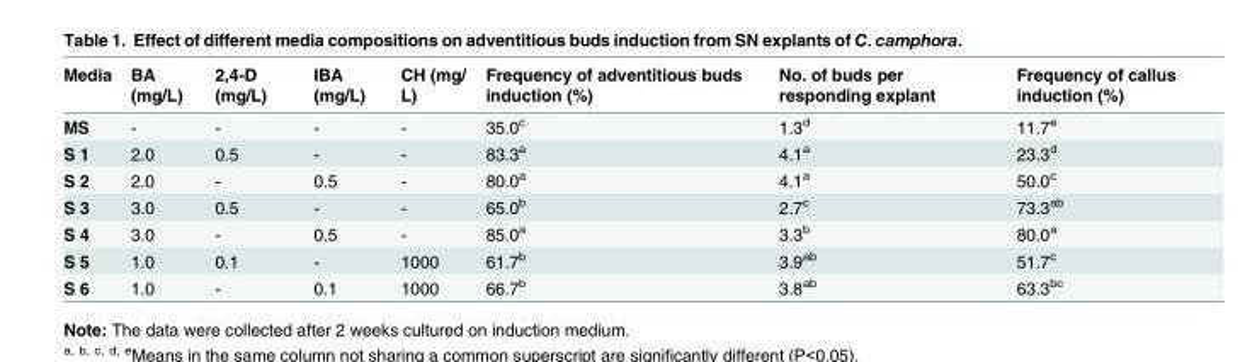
<table><thead><tr><td>Media</td><td>BA (mg/L)</td><td>2,4-D (mg/L)</td><td>IBA (mg/L)</td><td>CH (mg/ L)</td><td>Frequency of adventitious buds induction (%)</td><td>No. of buds per responding explant</td><td>Frequency of callus induction (%)</td></tr></thead><tbody><tr><td>MS</td><td>-</td><td>-</td><td>-</td><td>-</td><td>35.0<sup>c</sup></td><td>1.3<sup>d</sup></td><td>11.7<sup>e</sup></td></tr><tr><td>S 1</td><td>2.0</td><td>0.5</td><td>-</td><td>-</td><td>83.3<sup>a</sup></td><td>4.1<sup>a</sup></td><td>23.3<sup>d</sup></td></tr><tr><td>S 2</td><td>2.0</td><td>-</td><td>0.5</td><td>-</td><td>80.0<sup>a</sup></td><td>4.1<sup>a</sup></td><td>50.0<sup>c</sup></td></tr><tr><td>S 3</td><td>3.0</td><td>0.5</td><td>-</td><td>-</td><td>65.0<sup>b</sup></td><td>2.7<sup>c</sup></td><td>73.3<sup>ab</sup></td></tr><tr><td>S 4</td><td>3.0</td><td>-</td><td>0.5</td><td>-</td><td>85.0<sup>a</sup></td><td>3.3<sup>b</sup></td><td>80.0<sup>a</sup></td></tr><tr><td>S 5</td><td>1.0</td><td>0.1</td><td>-</td><td>1000</td><td>61.7<sup>b</sup></td><td>3.9<sup>ab</sup></td><td>51.7<sup>c</sup></td></tr><tr><td>S 6</td><td>1.0</td><td>-</td><td>0.1</td><td>1000</td><td>66.7<sup>b</sup></td><td>3.8<sup>ab</sup></td><td>63.3<sup>bc</sup></td></tr></tbody></table>